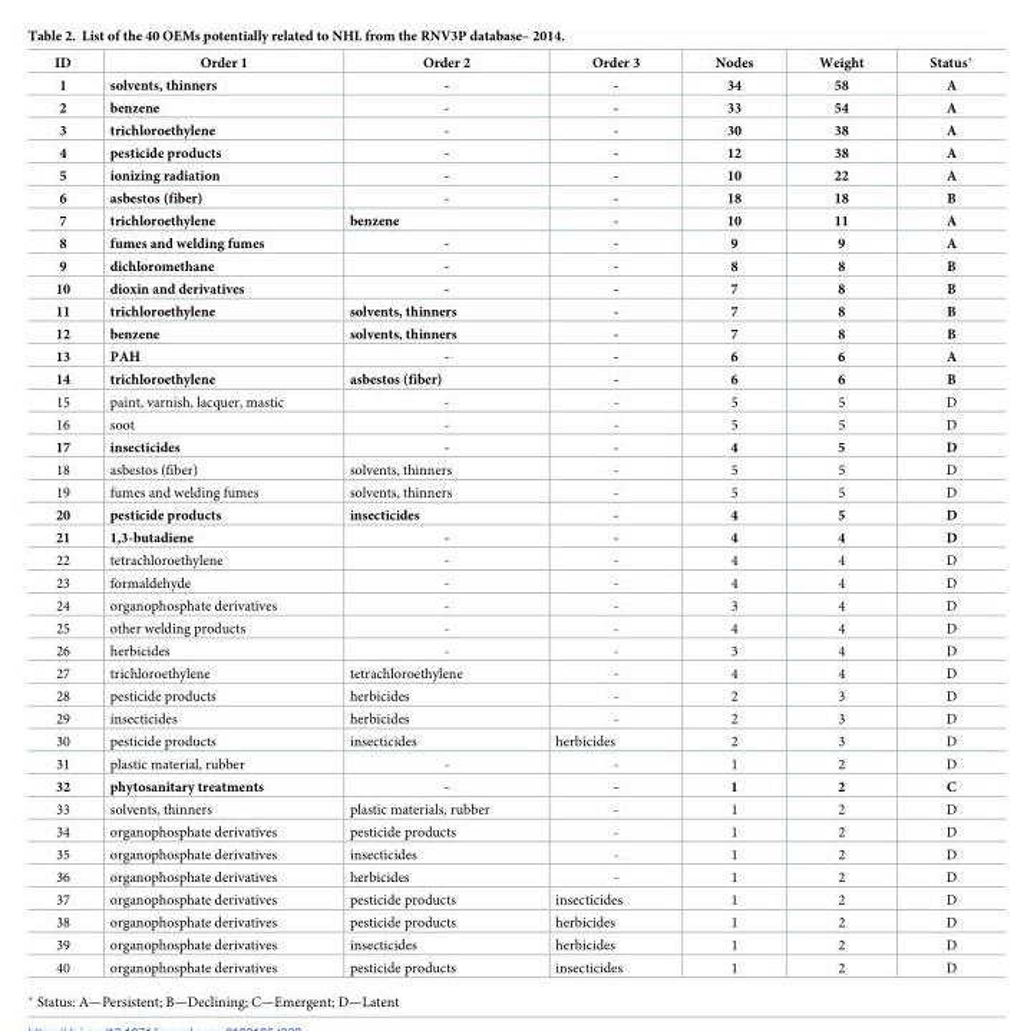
<table><thead><tr><td>ID</td><td>Order 1</td><td>Order 2</td><td>Order 3</td><td>Nodes</td><td>Weight</td><td>Status*</td></tr></thead><tbody><tr><td>1</td><td>solvents, thinners</td><td>-</td><td>-</td><td>34</td><td>58</td><td>A</td></tr><tr><td>2</td><td>benzene</td><td>-</td><td>-</td><td>33</td><td>54</td><td>A</td></tr><tr><td>3</td><td>trichloroethylene</td><td>-</td><td>-</td><td>30</td><td>38</td><td>A</td></tr><tr><td>4</td><td>pesticide products</td><td>-</td><td>-</td><td>12</td><td>38</td><td>A</td></tr><tr><td>5</td><td>ionizing radiation</td><td>-</td><td>-</td><td>10</td><td>22</td><td>A</td></tr><tr><td>6</td><td>asbestos (fiber)</td><td>-</td><td>-</td><td>18</td><td>18</td><td>B</td></tr><tr><td>7</td><td>trichloroethylene</td><td>benzene</td><td>-</td><td>10</td><td>11</td><td>A</td></tr><tr><td>8</td><td>fumes and welding fumes</td><td>-</td><td>-</td><td>9</td><td>9</td><td>A</td></tr><tr><td>9</td><td>dichloromethane</td><td>-</td><td>-</td><td>8</td><td>8</td><td>B</td></tr><tr><td>10</td><td>dioxin and derivatives</td><td>-</td><td>-</td><td>7</td><td>8</td><td>B</td></tr><tr><td>11</td><td>trichloroethylene</td><td>solvents, thinners</td><td>-</td><td>7</td><td>8</td><td>B</td></tr><tr><td>12</td><td>benzene</td><td>solvents, thinners</td><td>-</td><td>7</td><td>8</td><td>B</td></tr><tr><td>13</td><td>PAH</td><td>-</td><td>-</td><td>6</td><td>6</td><td>A</td></tr><tr><td>14</td><td>trichloroethylene</td><td>asbestos (fiber)</td><td>-</td><td>6</td><td>6</td><td>B</td></tr><tr><td>15</td><td>paint, varnish, lacquer, mastic</td><td>-</td><td>-</td><td>5</td><td>5</td><td>D</td></tr><tr><td>16</td><td>soot</td><td>-</td><td>-</td><td>5</td><td>5</td><td>D</td></tr><tr><td>17</td><td>insecticides</td><td>-</td><td>-</td><td>4</td><td>5</td><td>D</td></tr><tr><td>18</td><td>asbestos (fiber)</td><td>solvents, thinners</td><td>-</td><td>5</td><td>5</td><td>D</td></tr><tr><td>19</td><td>fumes and welding fumes</td><td>solvents, thinners</td><td>-</td><td>5</td><td>5</td><td>D</td></tr><tr><td>20</td><td>pesticide products</td><td>insecticides</td><td>-</td><td>4</td><td>5</td><td>D</td></tr><tr><td>21</td><td>1,3-butadiene</td><td>-</td><td>-</td><td>4</td><td>4</td><td>D</td></tr><tr><td>22</td><td>tetrachloroethylene</td><td>-</td><td>-</td><td>4</td><td>4</td><td>D</td></tr><tr><td>23</td><td>formaldehyde</td><td>-</td><td>-</td><td>4</td><td>4</td><td>D</td></tr><tr><td>24</td><td>organophosphate derivatives</td><td>-</td><td>-</td><td>3</td><td>4</td><td>D</td></tr><tr><td>25</td><td>other welding products</td><td>-</td><td>-</td><td>4</td><td>4</td><td>D</td></tr><tr><td>26</td><td>herbicides</td><td>-</td><td>-</td><td>3</td><td>4</td><td>D</td></tr><tr><td>27</td><td>trichloroethylene</td><td>tetrachloroethylene</td><td>-</td><td>4</td><td>4</td><td>D</td></tr><tr><td>28</td><td>pesticide products</td><td>herbicides</td><td>-</td><td>2</td><td>3</td><td>D</td></tr><tr><td>29</td><td>insecticides</td><td>herbicides</td><td>-</td><td>2</td><td>3</td><td>D</td></tr><tr><td>30</td><td>pesticide products</td><td>insecticides</td><td>herbicides</td><td>2</td><td>3</td><td>D</td></tr><tr><td>31</td><td>plastic material, rubber</td><td>-</td><td>-</td><td>1</td><td>2</td><td>D</td></tr><tr><td>32</td><td>phytosanitary treatments</td><td>-</td><td>-</td><td>1</td><td>2</td><td>C</td></tr><tr><td>33</td><td>solvents, thinners</td><td>plastic materials, rubber</td><td>-</td><td>1</td><td>2</td><td>D</td></tr><tr><td>34</td><td>organophosphate derivatives</td><td>pesticide products</td><td>-</td><td>1</td><td>2</td><td>D</td></tr><tr><td>35</td><td>organophosphate derivatives</td><td>insecticides</td><td>-</td><td>1</td><td>2</td><td>D</td></tr><tr><td>36</td><td>organophosphate derivatives</td><td>herbicides</td><td>-</td><td>1</td><td>2</td><td>D</td></tr><tr><td>37</td><td>organophosphate derivatives</td><td>pesticide products</td><td>insecticides</td><td>1</td><td>2</td><td>D</td></tr><tr><td>38</td><td>organophosphate derivatives</td><td>pesticide products</td><td>herbicides</td><td>1</td><td>2</td><td>D</td></tr><tr><td>39</td><td>organophosphate derivatives</td><td>insecticides</td><td>herbicides</td><td>1</td><td>2</td><td>D</td></tr><tr><td>40</td><td>organophosphate derivatives</td><td>pesticide products</td><td>insecticides</td><td>1</td><td>2</td><td>D</td></tr></tbody></table>